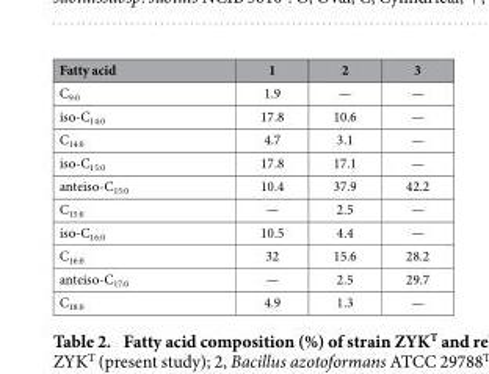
<table><thead><tr><td>Fatty acid</td><td>1</td><td>2</td><td>3</td></tr></thead><tbody><tr><td>C<sub>9:0</sub></td><td>1.9</td><td>—</td><td>—</td></tr><tr><td>iso-C<sub>14:0</sub></td><td>17.8</td><td>10.6</td><td>—</td></tr><tr><td>C<sub>14:0</sub></td><td>4.7</td><td>3.1</td><td>—</td></tr><tr><td>iso-C<sub>15:0</sub></td><td>17.8</td><td>17.1</td><td>—</td></tr><tr><td>anteiso-C<sub>15:0</sub></td><td>10.4</td><td>37.9</td><td>42.2</td></tr><tr><td>C<sub>15:0</sub></td><td>—</td><td>2.5</td><td>—</td></tr><tr><td>iso-C<sub>16:0</sub></td><td>10.5</td><td>4.4</td><td>—</td></tr><tr><td>C<sub>16:0</sub></td><td>32</td><td>15.6</td><td>28.2</td></tr><tr><td>anteiso-C<sub>17:0</sub></td><td>—</td><td>2.5</td><td>29.7</td></tr><tr><td>C<sub>18:0</sub></td><td>4.9</td><td>1.3</td><td>—</td></tr></tbody></table>